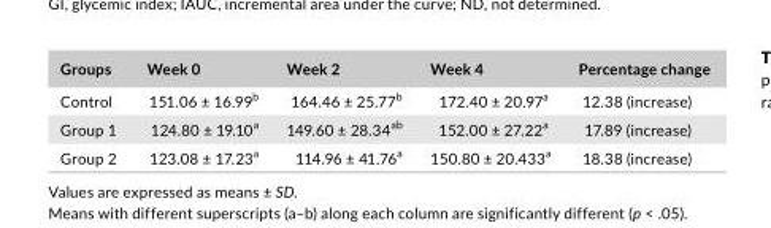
<table><thead><tr><td>Groups</td><td>Week 0</td><td>Week 2</td><td>Week 4</td><td>Percentage change</td></tr></thead><tbody><tr><td>Control</td><td>151.06 ± 16.99<sup>b</sup></td><td>164.46 ± 25.77<sup>b</sup></td><td>172.40 ± 20.97<sup>a</sup></td><td>12.38 (increase)</td></tr><tr><td>Group 1</td><td>124.80 ± 19.10<sup>a</sup></td><td>149.60 ± 28.34<sup>ab</sup></td><td>152.00 ± 27.22<sup>a</sup></td><td>17.89 (increase)</td></tr><tr><td>Group 2</td><td>123.08 ± 17.23<sup>a</sup></td><td>114.96 ± 41.76<sup>a</sup></td><td>150.80 ± 20.433<sup>a</sup></td><td>18.38 (increase)</td></tr></tbody></table>